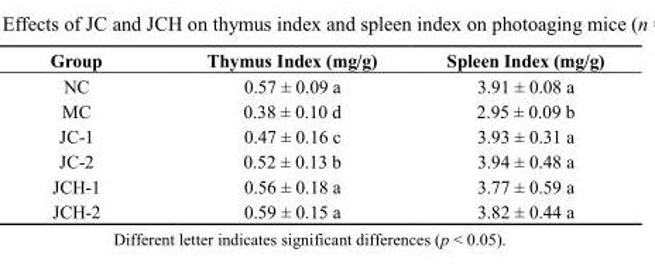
<table><thead><tr><td>Group</td><td>Thymus Index (mg/g)</td><td>Spleen Index (mg/g)</td></tr></thead><tbody><tr><td>NC</td><td>0.57 ± 0.09 a</td><td>3.91 ± 0.08 a</td></tr><tr><td>MC</td><td>0.38 ± 0.10 d</td><td>2.95 ± 0.09 b</td></tr><tr><td>JC-1</td><td>0.47 ± 0.16 c</td><td>3.93 ± 0.31 a</td></tr><tr><td>JC-2</td><td>0.52 ± 0.13 b</td><td>3.94 ± 0.48 a</td></tr><tr><td>JCH-1</td><td>0.56 ± 0.18 a</td><td>3.77 ± 0.59 a</td></tr><tr><td>JCH-2</td><td>0.59 ± 0.15 a</td><td>3.82 ± 0.44 a</td></tr></tbody></table>